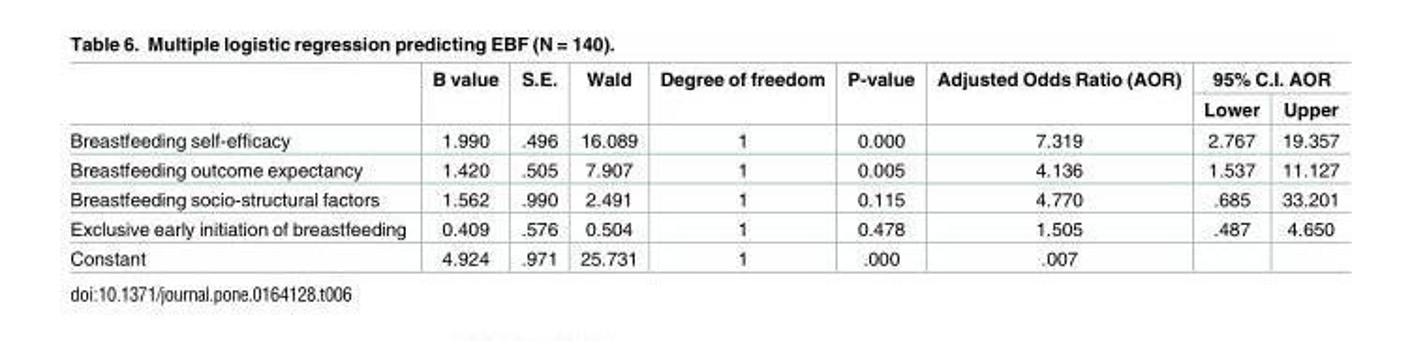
<table><thead><tr><td rowspan="2"></td><td rowspan="2">B value</td><td rowspan="2">S.E.</td><td rowspan="2">Wald</td><td rowspan="2">Degree of freedom</td><td rowspan="2">P-value</td><td rowspan="2">Adjusted Odds Ratio (AOR)</td><td colspan="2">95% C.I. AOR</td></tr><tr><td>Lower</td><td>Upper</td></tr></thead><tbody><tr><td>Breastfeeding self-efficacy</td><td>1.990</td><td>.496</td><td>16.089</td><td>1</td><td>0.000</td><td>7.319</td><td>2.767</td><td>19.357</td></tr><tr><td>Breastfeeding outcome expectancy</td><td>1.420</td><td>.505</td><td>7.907</td><td>1</td><td>0.005</td><td>4.136</td><td>1.537</td><td>11.127</td></tr><tr><td>Breastfeeding socio-structural factors</td><td>1.562</td><td>.990</td><td>2.491</td><td>1</td><td>0.115</td><td>4.770</td><td>.685</td><td>33.201</td></tr><tr><td>Exclusive early initiation of breastfeeding</td><td>0.409</td><td>.576</td><td>0.504</td><td>1</td><td>0.478</td><td>1.505</td><td>.487</td><td>4.650</td></tr><tr><td>Constant</td><td>4.924</td><td>.971</td><td>25.731</td><td>1</td><td>.000</td><td>.007</td><td></td><td></td></tr></tbody></table>